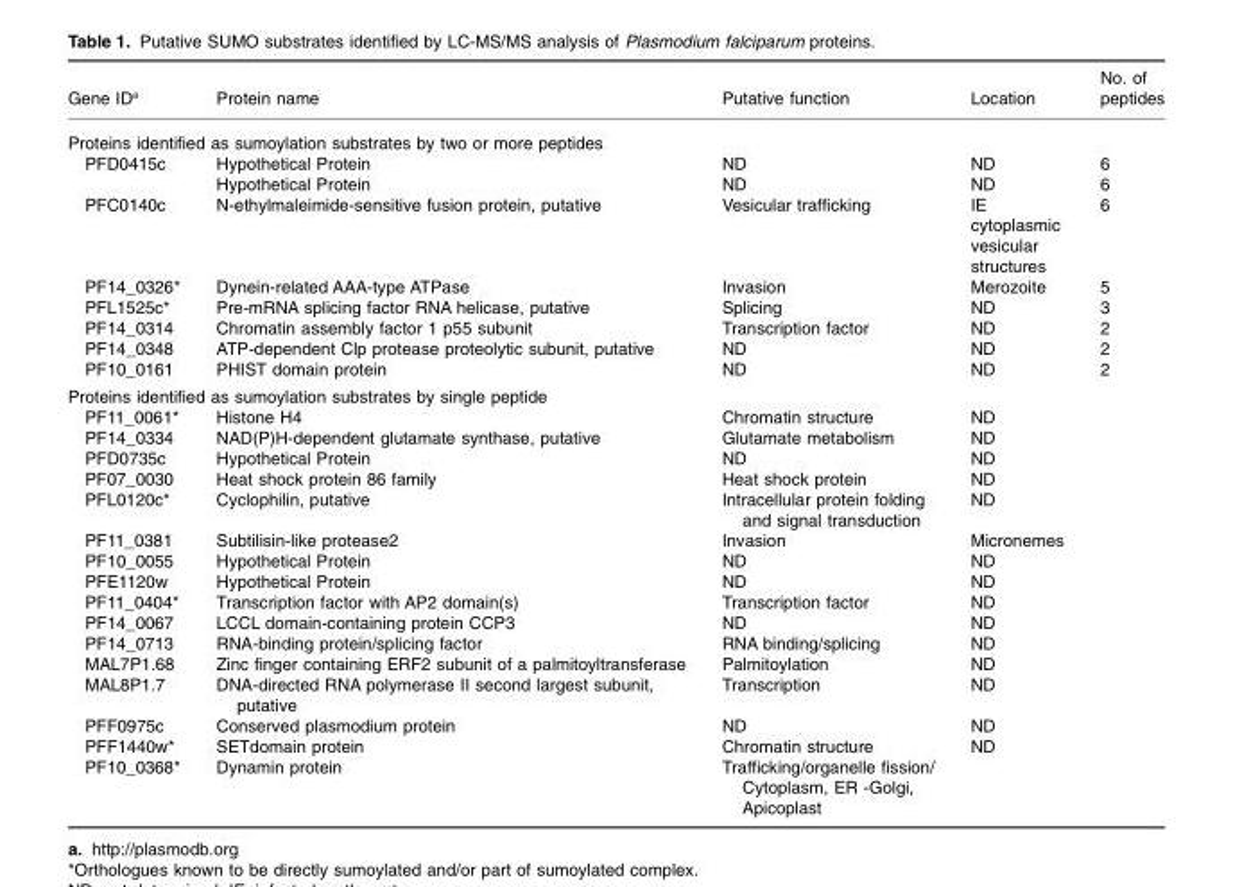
<table><thead><tr><td>Gene ID<sup>a</sup></td><td>Protein name</td><td>Putative function</td><td>Location</td><td>No. of peptides</td></tr></thead><tbody><tr><td colspan="5">Proteins identified as sumoylation substrates by two or more peptides</td></tr><tr><td rowspan="2">PFD0415c</td><td>Hypothetical Protein</td><td>ND</td><td>ND</td><td>6</td></tr><tr><td>Hypothetical Protein</td><td>ND</td><td>ND</td><td>6</td></tr><tr><td>PFC0140c</td><td>N-ethylmaleimide-sensitive fusion protein, putative</td><td>Vesicular trafficking</td><td>IE cytoplasmic vesicular structures</td><td>6</td></tr><tr><td>PF14_0326*</td><td>Dynein-related AAA-type ATPase</td><td>Invasion</td><td>Merozoite</td><td>5</td></tr><tr><td>PFL1525c*</td><td>Pre-mRNA splicing factor RNA helicase, putative</td><td>Splicing</td><td>ND</td><td>3</td></tr><tr><td>PF14_0314</td><td>Chromatin assembly factor 1 p55 subunit</td><td>Transcription factor</td><td>ND</td><td>2</td></tr><tr><td>PF14_0348</td><td>ATP-dependent Clp protease proteolytic subunit, putative</td><td>ND</td><td>ND</td><td>2</td></tr><tr><td>PF10_0161</td><td>PHIST domain protein</td><td>ND</td><td>ND</td><td>2</td></tr><tr><td colspan="5">Proteins identified as sumoylation substrates by single peptide</td></tr><tr><td>PF11_0061*</td><td>Histone H4</td><td>Chromatin structure</td><td>ND</td><td></td></tr><tr><td>PF14_0334</td><td>NAD(P)H-dependent glutamate synthase, putative</td><td>Glutamate metabolism</td><td>ND</td><td></td></tr><tr><td>PFD0735c</td><td>Hypothetical Protein</td><td>ND</td><td>ND</td><td></td></tr><tr><td>PF07_0030</td><td>Heat shock protein 86 family</td><td>Heat shock protein</td><td>ND</td><td></td></tr><tr><td>PFL0120c*</td><td>Cyclophilin, putative</td><td>Intracellular protein folding and signal transduction</td><td>ND</td><td></td></tr><tr><td>PF11_0381</td><td>Subtilisin-like protease2</td><td>Invasion</td><td>Micronemes</td><td></td></tr><tr><td>PF10_0055</td><td>Hypothetical Protein</td><td>ND</td><td>ND</td><td></td></tr><tr><td>PFE1120w</td><td>Hypothetical Protein</td><td>ND</td><td>ND</td><td></td></tr><tr><td>PF11_0404*</td><td>Transcription factor with AP2 domain(s)</td><td>Transcription factor</td><td>ND</td><td></td></tr><tr><td>PF14_0067</td><td>LCCL domain-containing protein CCP3</td><td>ND</td><td>ND</td><td></td></tr><tr><td>PF14_0713</td><td>RNA-binding protein/splicing factor</td><td>RNA binding/splicing</td><td>ND</td><td></td></tr><tr><td>MAL7P1.68</td><td>Zinc finger containing ERF2 subunit of a palmitoyltransferase</td><td>Palmitoylation</td><td>ND</td><td></td></tr><tr><td>MAL8P1.7</td><td>DNA-directed RNA polymerase II second largest subunit, putative</td><td>Transcription</td><td>ND</td><td></td></tr><tr><td>PFF0975c</td><td>Conserved plasmodium protein</td><td>ND</td><td>ND</td><td></td></tr><tr><td>PFF1440w*</td><td>SETdomain protein</td><td>Chromatin structure</td><td>ND</td><td></td></tr><tr><td>PF10_0368*</td><td>Dynamin protein</td><td>Trafficking/organelle fission/ Cytoplasm, ER -Golgi, Apicoplast</td><td></td><td></td></tr></tbody></table>